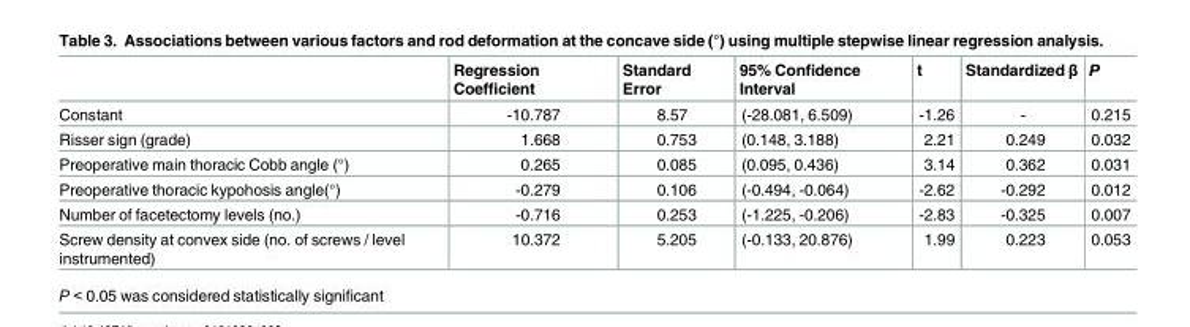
<table><thead><tr><td></td><td>Regression Coefficient</td><td>Standard Error</td><td>95% Confidence Interval</td><td>t</td><td>Standardized β</td><td>P</td></tr></thead><tbody><tr><td>Constant</td><td>-10.787</td><td>8.57</td><td>(-28.081, 6.509)</td><td>-1.26</td><td>-</td><td>0.215</td></tr><tr><td>Risser sign (grade)</td><td>1.668</td><td>0.753</td><td>(0.148, 3.188)</td><td>2.21</td><td>0.249</td><td>0.032</td></tr><tr><td>Preoperative main thoracic Cobb angle (°)</td><td>0.265</td><td>0.085</td><td>(0.095, 0.436)</td><td>3.14</td><td>0.362</td><td>0.031</td></tr><tr><td>Preoperative thoracic kypohosis angle(°)</td><td>-0.279</td><td>0.106</td><td>(-0.494, -0.064)</td><td>-2.62</td><td>-0.292</td><td>0.012</td></tr><tr><td>Number of facetectomy levels (no.)</td><td>-0.716</td><td>0.253</td><td>(-1.225, -0.206)</td><td>-2.83</td><td>-0.325</td><td>0.007</td></tr><tr><td>Screw density at convex side (no. of screws / level instrumented)</td><td>10.372</td><td>5.205</td><td>(-0.133, 20.876)</td><td>1.99</td><td>0.223</td><td>0.053</td></tr></tbody></table>